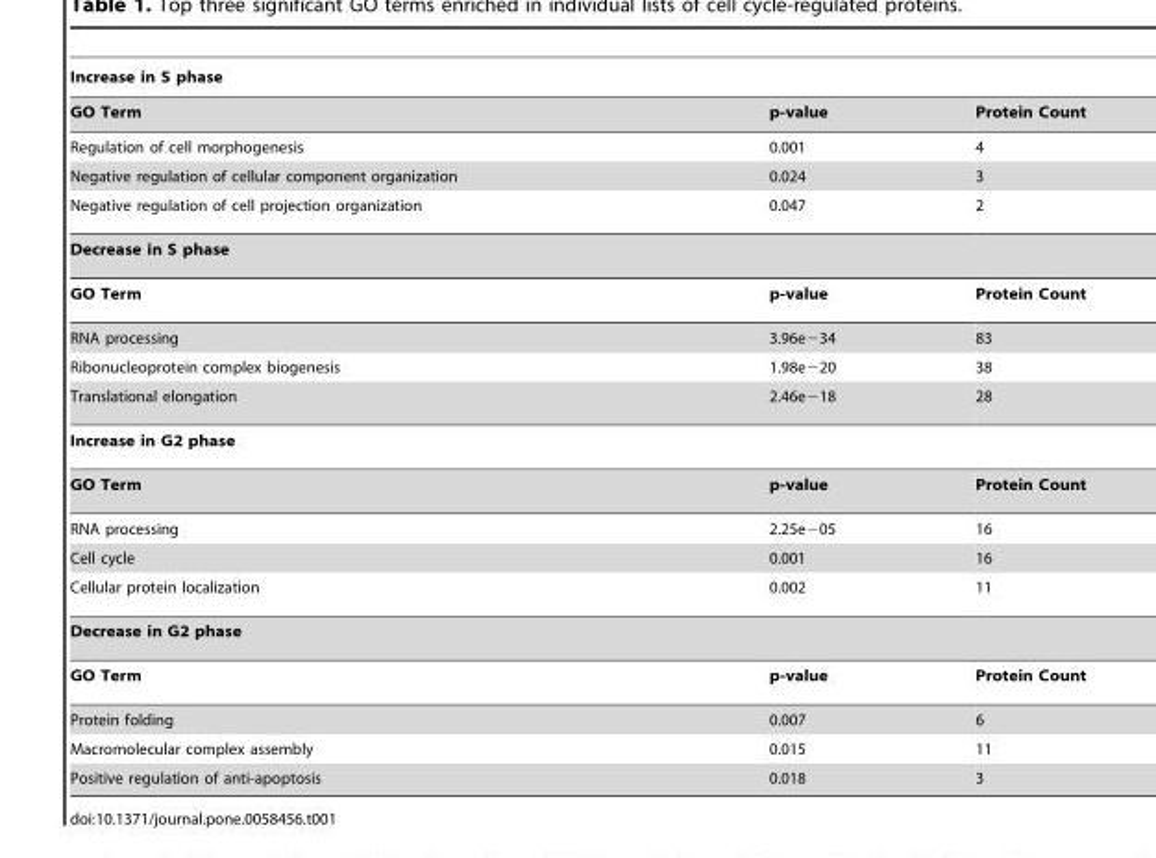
<table><thead><tr><td colspan="3">Increase in S phase</td></tr><tr><td>GO Term</td><td>p-value</td><td>Protein Count</td></tr></thead><tbody><tr><td>Regulation of cell morphogenesis</td><td>0.001</td><td>4</td></tr><tr><td>Negative regulation of cellular component organization</td><td>0.024</td><td>3</td></tr><tr><td>Negative regulation of cell projection organization</td><td>0.047</td><td>2</td></tr><tr><td colspan="3">Decrease in S phase</td></tr><tr><td>GO Term</td><td>p-value</td><td>Protein Count</td></tr><tr><td>RNA processing</td><td>3.96e−34</td><td>83</td></tr><tr><td>Ribonucleoprotein complex biogenesis</td><td>1.98e−20</td><td>38</td></tr><tr><td>Translational elongation</td><td>2.46e−18</td><td>28</td></tr><tr><td colspan="3">Increase in G2 phase</td></tr><tr><td>GO Term</td><td>p-value</td><td>Protein Count</td></tr><tr><td>RNA processing</td><td>2.25e−05</td><td>16</td></tr><tr><td>Cell cycle</td><td>0.001</td><td>16</td></tr><tr><td>Cellular protein localization</td><td>0.002</td><td>11</td></tr><tr><td colspan="3">Decrease in G2 phase</td></tr><tr><td>GO Term</td><td>p-value</td><td>Protein Count</td></tr><tr><td>Protein folding</td><td>0.007</td><td>6</td></tr><tr><td>Macromolecular complex assembly</td><td>0.015</td><td>11</td></tr><tr><td>Positive regulation of anti-apoptosis</td><td>0.018</td><td>3</td></tr></tbody></table>